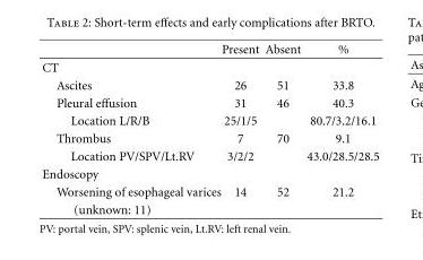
<table><thead><tr><td></td><td>Present</td><td>Absent</td><td>%</td></tr></thead><tbody><tr><td colspan="4">CT</td></tr><tr><td>Ascites</td><td>26</td><td>51</td><td>33.8</td></tr><tr><td>Pleural effusion</td><td>31</td><td>46</td><td>40.3</td></tr><tr><td>Location L/R/B</td><td>25/1/5</td><td></td><td>80.7/3.2/16.1</td></tr><tr><td>Thrombus</td><td>7</td><td>70</td><td>9.1</td></tr><tr><td>Location PV/SPV/Lt.RV</td><td>3/2/2</td><td></td><td>43.0/28.5/28.5</td></tr><tr><td colspan="4">Endoscopy</td></tr><tr><td>Worsening of esophageal varices</td><td>14</td><td>52</td><td>21.2</td></tr><tr><td>(unknown: 11)</td><td></td><td></td><td></td></tr></tbody></table>